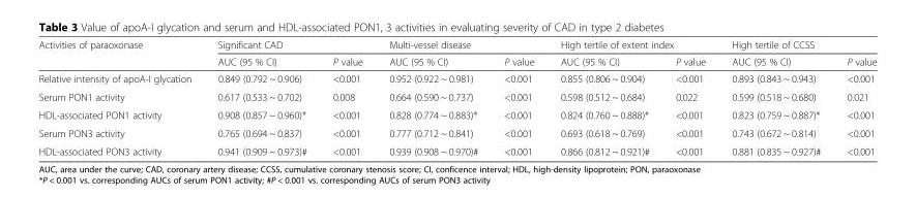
<table><thead><tr><td rowspan="2">Activities of paraoxonase</td><td colspan="2">Significant CAD</td><td colspan="2">Multi-vessel disease</td><td colspan="2">High tertile of extent index</td><td colspan="2">High tertile of CCSS</td></tr><tr><td>AUC (95 % CI)</td><td>P value</td><td>AUC (95 % CI)</td><td>P value</td><td>AUC (95 % CI)</td><td>P value</td><td>AUC (95 % CI)</td><td>P value</td></tr></thead><tbody><tr><td>Relative intensity of apoA-I glycation</td><td>0.849 (0.792 ~ 0.906)</td><td>&lt;0.001</td><td>0.952 (0.922 ~ 0.981)</td><td>&lt;0.001</td><td>0.855 (0.806 ~ 0.904)</td><td>&lt;0.001</td><td>0.893 (0.843 ~ 0.943)</td><td>&lt;0.001</td></tr><tr><td>Serum PON1 activity</td><td>0.617 (0.533 ~ 0.702)</td><td>0.008</td><td>0.664 (0.590 ~ 0.737)</td><td>&lt;0.001</td><td>0.598 (0.512 ~ 0.684)</td><td>0.022</td><td>0.599 (0.518 ~ 0.680)</td><td>0.021</td></tr><tr><td>HDL-associated PON1 activity</td><td>0.908 (0.857 ~ 0.960)*</td><td>&lt;0.001</td><td>0.828 (0.774 ~ 0.883)*</td><td>&lt;0.001</td><td>0.824 (0.760 ~ 0.888)*</td><td>&lt;0.001</td><td>0.823 (0.759 ~ 0.887)*</td><td>&lt;0.001</td></tr><tr><td>Serum PON3 activity</td><td>0.765 (0.694 ~ 0.837)</td><td>&lt;0.001</td><td>0.777 (0.712 ~ 0.841)</td><td>&lt;0.001</td><td>0.693 (0.618 ~ 0.769)</td><td>&lt;0.001</td><td>0.743 (0.672 ~ 0.814)</td><td>&lt;0.001</td></tr><tr><td>HDL-associated PON3 activity</td><td>0.941 (0.909 ~ 0.973)#</td><td>&lt;0.001</td><td>0.939 (0.908 ~ 0.970)#</td><td>&lt;0.001</td><td>0.866 (0.812 ~ 0.921)#</td><td>&lt;0.001</td><td>0.881 (0.835 ~ 0.927)#</td><td>&lt;0.001</td></tr></tbody></table>